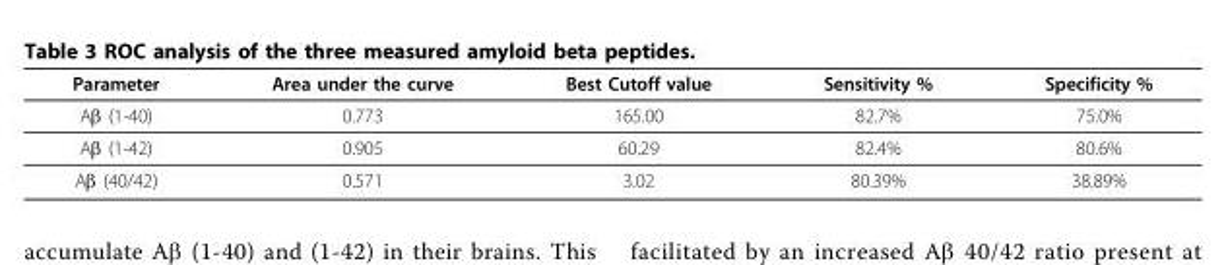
<table><thead><tr><td>Parameter</td><td>Area under the curve</td><td>Best Cutoff value</td><td>Sensitivity %</td><td>Specificity %</td></tr></thead><tbody><tr><td>Aβ (1-40)</td><td>0.773</td><td>165.00</td><td>82.7%</td><td>75.0%</td></tr><tr><td>Aβ (1-42)</td><td>0.905</td><td>60.29</td><td>82.4%</td><td>80.6%</td></tr><tr><td>Aβ (40/42)</td><td>0.571</td><td>3.02</td><td>80.39%</td><td>38.89%</td></tr></tbody></table>